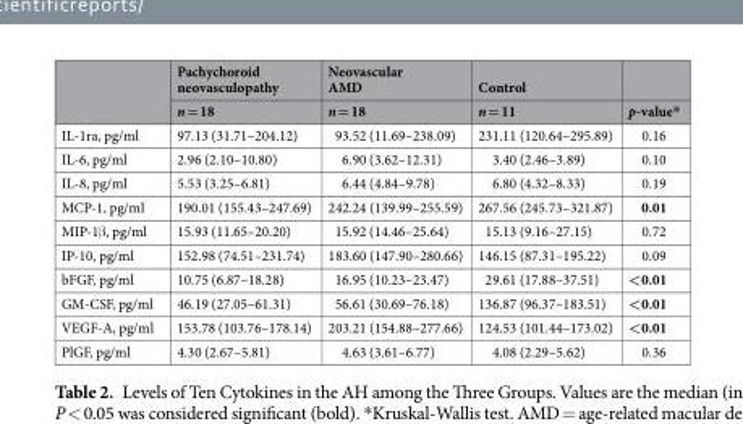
<table><thead><tr><td rowspan="2"></td><td rowspan="2">Pachychoroid neovasculopathy n = 18</td><td rowspan="2">Neovascular AMD n = 18</td><td rowspan="2">Control n = 11</td><td rowspan="2">p-value*</td></tr><tr></tr></thead><tbody><tr><td>IL-1ra, pg/ml</td><td>97.13 (31.71–204.12)</td><td>93.52 (11.69–238.09)</td><td>231.11 (120.64–295.89)</td><td>0.16</td></tr><tr><td>IL-6, pg/ml</td><td>2.96 (2.10–10.80)</td><td>6.90 (3.62–12.31)</td><td>3.40 (2.46–3.89)</td><td>0.10</td></tr><tr><td>IL-8, pg/ml</td><td>5.53 (3.25–6.81)</td><td>6.44 (4.84–9.78)</td><td>6.80 (4.32–8.33)</td><td>0.19</td></tr><tr><td>MCP-1, pg/ml</td><td>190.01 (155.43–247.69)</td><td>242.24 (139.99–255.59)</td><td>267.56 (245.73–321.87)</td><td>0.01</td></tr><tr><td>MIP-1β, pg/ml</td><td>15.93 (11.65–20.20)</td><td>15.92 (14.46–25.64)</td><td>15.13 (9.16–27.15)</td><td>0.72</td></tr><tr><td>IP-10, pg/ml</td><td>152.98 (74.51–231.74)</td><td>183.60 (147.90–280.66)</td><td>146.15 (87.31–195.22)</td><td>0.09</td></tr><tr><td>bFGF, pg/ml</td><td>10.75 (6.87–18.28)</td><td>16.95 (10.23–23.47)</td><td>29.61 (17.88–37.51)</td><td>&lt;0.01</td></tr><tr><td>GM-CSF, pg/ml</td><td>46.19 (27.05–61.31)</td><td>56.61 (30.69–76.18)</td><td>136.87 (96.37–183.51)</td><td>&lt;0.01</td></tr><tr><td>VEGF-A, pg/ml</td><td>153.78 (103.76–178.14)</td><td>203.21 (154.88–277.66)</td><td>124.53 (101.44–173.02)</td><td>&lt;0.01</td></tr><tr><td>PlGF, pg/ml</td><td>4.30 (2.67–5.81)</td><td>4.63 (3.61–6.77)</td><td>4.08 (2.29–5.62)</td><td>0.36</td></tr></tbody></table>